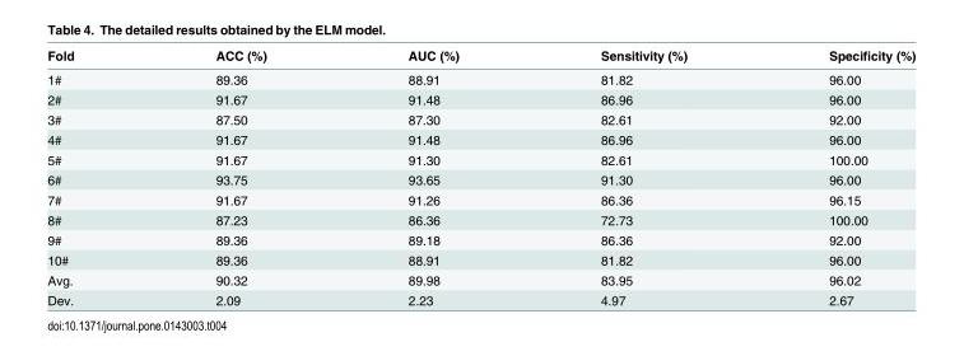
<table><thead><tr><td>Fold</td><td>ACC (%)</td><td>AUC (%)</td><td>Sensitivity (%)</td><td>Specificity (%)</td></tr></thead><tbody><tr><td>1#</td><td>89.36</td><td>88.91</td><td>81.82</td><td>96.00</td></tr><tr><td>2#</td><td>91.67</td><td>91.48</td><td>86.96</td><td>96.00</td></tr><tr><td>3#</td><td>87.50</td><td>87.30</td><td>82.61</td><td>92.00</td></tr><tr><td>4#</td><td>91.67</td><td>91.48</td><td>86.96</td><td>96.00</td></tr><tr><td>5#</td><td>91.67</td><td>91.30</td><td>82.61</td><td>100.00</td></tr><tr><td>6#</td><td>93.75</td><td>93.65</td><td>91.30</td><td>96.00</td></tr><tr><td>7#</td><td>91.67</td><td>91.26</td><td>86.36</td><td>96.15</td></tr><tr><td>8#</td><td>87.23</td><td>86.36</td><td>72.73</td><td>100.00</td></tr><tr><td>9#</td><td>89.36</td><td>89.18</td><td>86.36</td><td>92.00</td></tr><tr><td>10#</td><td>89.36</td><td>88.91</td><td>81.82</td><td>96.00</td></tr><tr><td>Avg.</td><td>90.32</td><td>89.98</td><td>83.95</td><td>96.02</td></tr><tr><td>Dev.</td><td>2.09</td><td>2.23</td><td>4.97</td><td>2.67</td></tr></tbody></table>